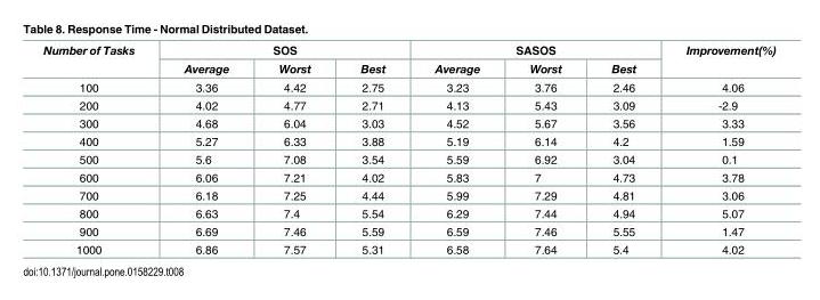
<table><thead><tr><td rowspan="2">Number of Tasks</td><td colspan="3">SOS</td><td colspan="3">SASOS</td><td rowspan="2">Improvement(%)</td></tr><tr><td>Average</td><td>Worst</td><td>Best</td><td>Average</td><td>Worst</td><td>Best</td></tr></thead><tbody><tr><td>100</td><td>3.36</td><td>4.42</td><td>2.75</td><td>3.23</td><td>3.76</td><td>2.46</td><td>4.06</td></tr><tr><td>200</td><td>4.02</td><td>4.77</td><td>2.71</td><td>4.13</td><td>5.43</td><td>3.09</td><td>-2.9</td></tr><tr><td>300</td><td>4.68</td><td>6.04</td><td>3.03</td><td>4.52</td><td>5.67</td><td>3.56</td><td>3.33</td></tr><tr><td>400</td><td>5.27</td><td>6.33</td><td>3.88</td><td>5.19</td><td>6.14</td><td>4.2</td><td>1.59</td></tr><tr><td>500</td><td>5.6</td><td>7.08</td><td>3.54</td><td>5.59</td><td>6.92</td><td>3.04</td><td>0.1</td></tr><tr><td>600</td><td>6.06</td><td>7.21</td><td>4.02</td><td>5.83</td><td>7</td><td>4.73</td><td>3.78</td></tr><tr><td>700</td><td>6.18</td><td>7.25</td><td>4.44</td><td>5.99</td><td>7.29</td><td>4.81</td><td>3.06</td></tr><tr><td>800</td><td>6.63</td><td>7.4</td><td>5.54</td><td>6.29</td><td>7.44</td><td>4.94</td><td>5.07</td></tr><tr><td>900</td><td>6.69</td><td>7.46</td><td>5.59</td><td>6.59</td><td>7.46</td><td>5.55</td><td>1.47</td></tr><tr><td>1000</td><td>6.86</td><td>7.57</td><td>5.31</td><td>6.58</td><td>7.64</td><td>5.4</td><td>4.02</td></tr></tbody></table>